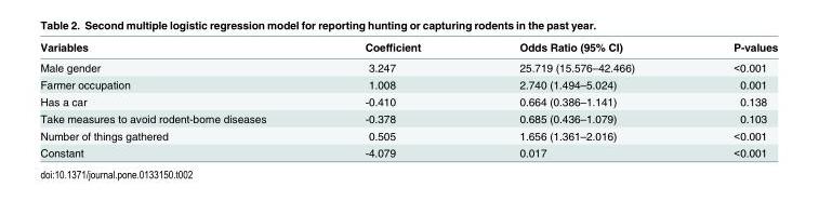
<table><thead><tr><td>Variables</td><td>Coefficient</td><td>Odds Ratio (95% CI)</td><td>P-values</td></tr></thead><tbody><tr><td>Male gender</td><td>3.247</td><td>25.719 (15.576–42.466)</td><td>&lt;0.001</td></tr><tr><td>Farmer occupation</td><td>1.008</td><td>2.740 (1.494–5.024)</td><td>0.001</td></tr><tr><td>Has a car</td><td>-0.410</td><td>0.664 (0.386–1.141)</td><td>0.138</td></tr><tr><td>Take measures to avoid rodent-borne diseases</td><td>-0.378</td><td>0.685 (0.436–1.079)</td><td>0.103</td></tr><tr><td>Number of things gathered</td><td>0.505</td><td>1.656 (1.361–2.016)</td><td>&lt;0.001</td></tr><tr><td>Constant</td><td>-4.079</td><td>0.017</td><td>&lt;0.001</td></tr></tbody></table>